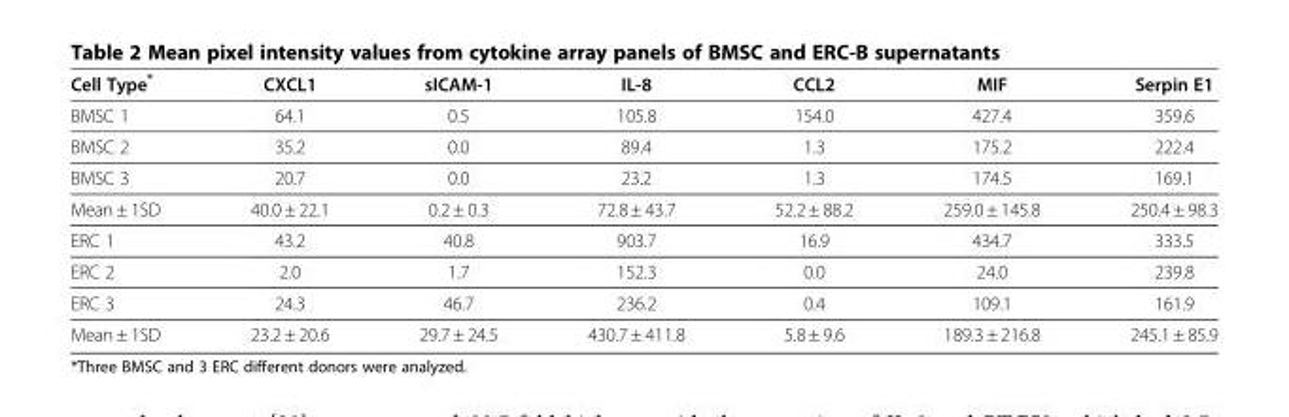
<table><thead><tr><td>Cell Type*</td><td>CXCL1</td><td>sICAM-1</td><td>IL-8</td><td>CCL2</td><td>MIF</td><td>Serpin E1</td></tr></thead><tbody><tr><td>BMSC 1</td><td>64.1</td><td>0.5</td><td>105.8</td><td>154.0</td><td>427.4</td><td>359.6</td></tr><tr><td>BMSC 2</td><td>35.2</td><td>0.0</td><td>89.4</td><td>1.3</td><td>175.2</td><td>222.4</td></tr><tr><td>BMSC 3</td><td>20.7</td><td>0.0</td><td>23.2</td><td>1.3</td><td>174.5</td><td>169.1</td></tr><tr><td>Mean ± 1SD</td><td>40.0 ± 22.1</td><td>0.2 ± 0.3</td><td>72.8 ± 43.7</td><td>52.2 ± 88.2</td><td>259.0 ± 145.8</td><td>250.4 ± 98.3</td></tr><tr><td>ERC 1</td><td>43.2</td><td>40.8</td><td>903.7</td><td>16.9</td><td>434.7</td><td>333.5</td></tr><tr><td>ERC 2</td><td>2.0</td><td>1.7</td><td>152.3</td><td>0.0</td><td>24.0</td><td>239.8</td></tr><tr><td>ERC 3</td><td>24.3</td><td>46.7</td><td>236.2</td><td>0.4</td><td>109.1</td><td>161.9</td></tr><tr><td>Mean ± 1SD</td><td>23.2 ± 20.6</td><td>29.7 ± 24.5</td><td>430.7 ± 411.8</td><td>5.8 ± 9.6</td><td>189.3 ± 216.8</td><td>245.1 ± 85.9</td></tr></tbody></table>